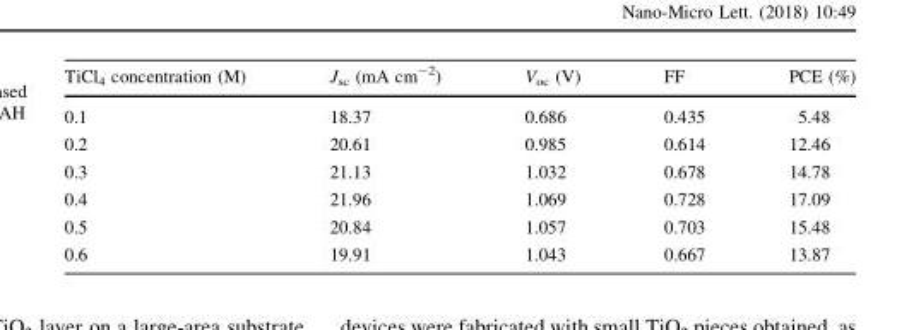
<table><thead><tr><td>TiCl<sub>4</sub> concentration (M)</td><td>J<sub>sc</sub> (mA cm<sup>-2</sup>)</td><td>V<sub>oc</sub> (V)</td><td>FF</td><td>PCE (%)</td></tr></thead><tbody><tr><td>0.1</td><td>18.37</td><td>0.686</td><td>0.435</td><td>5.48</td></tr><tr><td>0.2</td><td>20.61</td><td>0.985</td><td>0.614</td><td>12.46</td></tr><tr><td>0.3</td><td>21.13</td><td>1.032</td><td>0.678</td><td>14.78</td></tr><tr><td>0.4</td><td>21.96</td><td>1.069</td><td>0.728</td><td>17.09</td></tr><tr><td>0.5</td><td>20.84</td><td>1.057</td><td>0.703</td><td>15.48</td></tr><tr><td>0.6</td><td>19.91</td><td>1.043</td><td>0.667</td><td>13.87</td></tr></tbody></table>